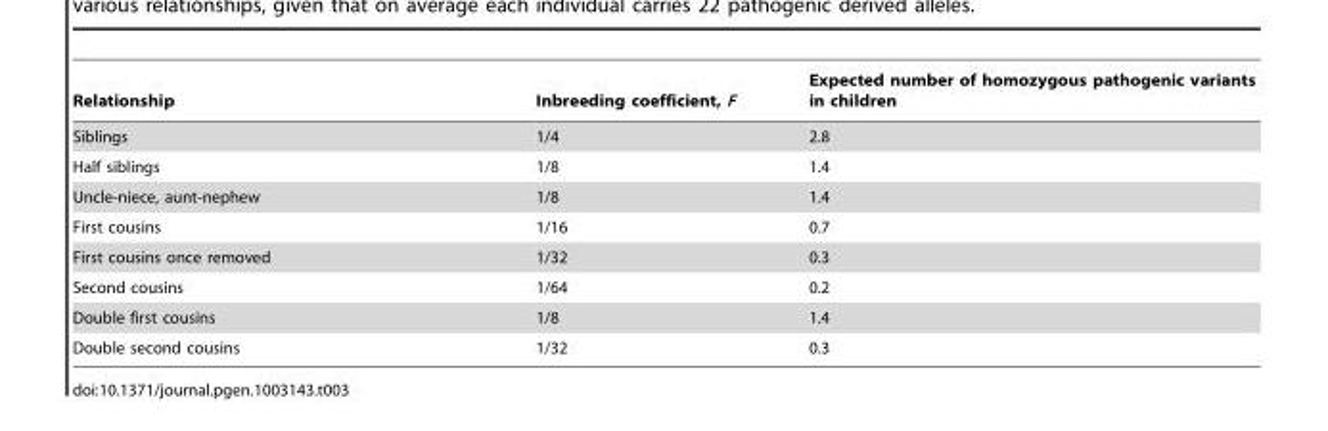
<table><thead><tr><td>Relationship</td><td>Inbreeding coefficient, F</td><td>Expected number of homozygous pathogenic variants in children</td></tr></thead><tbody><tr><td>Siblings</td><td>1/4</td><td>2.8</td></tr><tr><td>Half siblings</td><td>1/8</td><td>1.4</td></tr><tr><td>Uncle-niece, aunt-nephew</td><td>1/8</td><td>1.4</td></tr><tr><td>First cousins</td><td>1/16</td><td>0.7</td></tr><tr><td>First cousins once removed</td><td>1/32</td><td>0.3</td></tr><tr><td>Second cousins</td><td>1/64</td><td>0.2</td></tr><tr><td>Double first cousins</td><td>1/8</td><td>1.4</td></tr><tr><td>Double second cousins</td><td>1/32</td><td>0.3</td></tr></tbody></table>